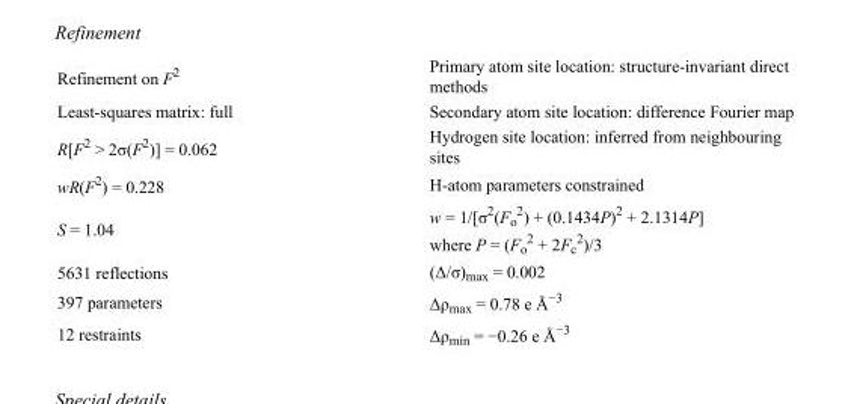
<table><tbody><tr><td>Refinement on F<sup>2</sup></td><td>Primary atom site location: structure-invariant direct methods</td></tr><tr><td>Least-squares matrix: full</td><td>Secondary atom site location: difference Fourier map</td></tr><tr><td>R[F<sup>2</sup> &gt; 2σ(F<sup>2</sup>)] = 0.062</td><td>Hydrogen site location: inferred from neighbouring sites</td></tr><tr><td>wR(F<sup>2</sup>) = 0.228</td><td>H-atom parameters constrained</td></tr><tr><td>S = 1.04</td><td>w = 1/[σ<sup>2</sup>(F<sub>o</sub> <sup>2</sup>) + (0.1434P)<sup>2</sup> + 2.1314P] where P = (F<sub>o</sub> <sup>2</sup> + 2F<sub>c</sub> <sup>2</sup>)/3</td></tr><tr><td>5631 reflections</td><td>(Δ/σ)<sub>max</sub> = 0.002</td></tr><tr><td>397 parameters</td><td>Δρ<sub>max</sub> = 0.78 e Å<sup>−3</sup></td></tr><tr><td>12 restraints</td><td>Δρ<sub>min</sub> = −0.26 e Å<sup>−3</sup></td></tr></tbody></table>